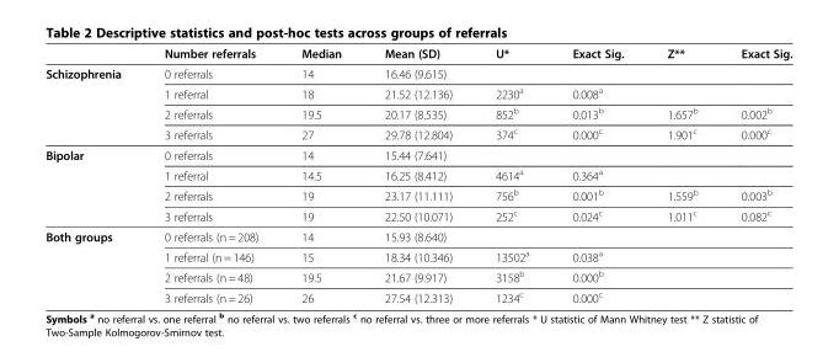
<table><thead><tr><td></td><td>Number referrals</td><td>Median</td><td>Mean (SD)</td><td>U*</td><td>Exact Sig.</td><td>Z**</td><td>Exact Sig.</td></tr></thead><tbody><tr><td rowspan="4">Schizophrenia</td><td>0 referrals</td><td>14</td><td>16.46 (9.615)</td><td></td><td></td><td></td><td></td></tr><tr><td>1 referral</td><td>18</td><td>21.52 (12.136)</td><td>2230<sup>a</sup></td><td>0.008<sup>a</sup></td><td></td><td></td></tr><tr><td>2 referrals</td><td>19.5</td><td>20.17 (8.535)</td><td>852<sup>b</sup></td><td>0.013<sup>b</sup></td><td>1.657<sup>b</sup></td><td>0.002<sup>b</sup></td></tr><tr><td>3 referrals</td><td>27</td><td>29.78 (12.804)</td><td>374<sup>c</sup></td><td>0.000<sup>c</sup></td><td>1.901<sup>c</sup></td><td>0.000<sup>c</sup></td></tr><tr><td rowspan="4">Bipolar</td><td>0 referrals</td><td>14</td><td>15.44 (7.641)</td><td></td><td></td><td></td><td></td></tr><tr><td>1 referral</td><td>14.5</td><td>16.25 (8.412)</td><td>4614<sup>a</sup></td><td>0.364<sup>a</sup></td><td></td><td></td></tr><tr><td>2 referrals</td><td>19</td><td>23.17 (11.111)</td><td>756<sup>b</sup></td><td>0.001<sup>b</sup></td><td>1.559<sup>b</sup></td><td>0.003<sup>b</sup></td></tr><tr><td>3 referrals</td><td>19</td><td>22.50 (10.071)</td><td>252<sup>c</sup></td><td>0.024<sup>c</sup></td><td>1.011<sup>c</sup></td><td>0.082<sup>c</sup></td></tr><tr><td rowspan="4">Both groups</td><td>0 referrals (n = 208)</td><td>14</td><td>15.93 (8.640)</td><td></td><td></td><td></td><td></td></tr><tr><td>1 referral (n = 146)</td><td>15</td><td>18.34 (10.346)</td><td>13502<sup>a</sup></td><td>0.038<sup>a</sup></td><td></td><td></td></tr><tr><td>2 referrals (n = 48)</td><td>19.5</td><td>21.67 (9.917)</td><td>3158<sup>b</sup></td><td>0.000<sup>b</sup></td><td></td><td></td></tr><tr><td>3 referrals (n = 26)</td><td>26</td><td>27.54 (12.313)</td><td>1234<sup>c</sup></td><td>0.000<sup>c</sup></td><td></td><td></td></tr></tbody></table>